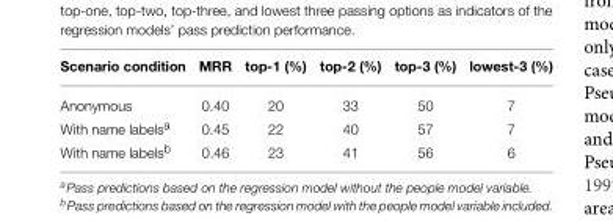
<table><thead><tr><td>Scenario condition</td><td>MRR</td><td>top-1 (%)</td><td>top-2 (%)</td><td>top-3 (%)</td><td>lowest-3 (%)</td></tr></thead><tbody><tr><td>Anonymous</td><td>0.40</td><td>20</td><td>33</td><td>50</td><td>7</td></tr><tr><td>With name labels<sup>a</sup></td><td>0.45</td><td>22</td><td>40</td><td>57</td><td>7</td></tr><tr><td>With name labels<sup>b</sup></td><td>0.46</td><td>23</td><td>41</td><td>56</td><td>6</td></tr></tbody></table>